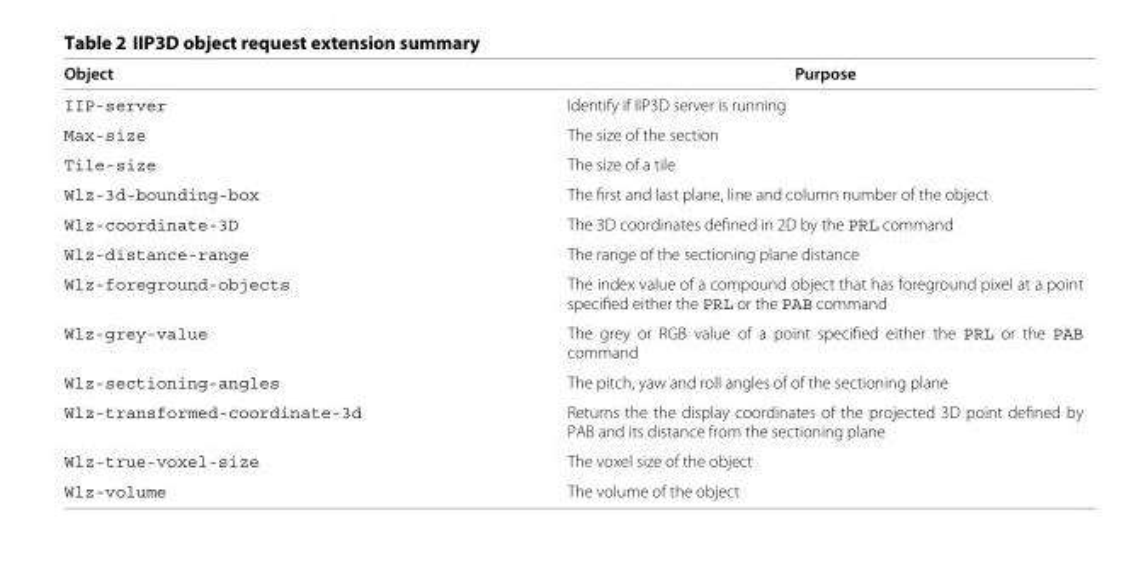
<table><thead><tr><td>Object</td><td>Purpose</td></tr></thead><tbody><tr><td>IIP-server</td><td>Identify if IIP3D server is running</td></tr><tr><td>Max-size</td><td>The size of the section</td></tr><tr><td>Tile-size</td><td>The size of a tile</td></tr><tr><td>Wlz-3d-bounding-box</td><td>The first and last plane, line and column number of the object</td></tr><tr><td>Wlz-coordinate-3D</td><td>The 3D coordinates defined in 2D by the PRL command</td></tr><tr><td>Wlz-distance-range</td><td>The range of the sectioning plane distance</td></tr><tr><td>Wlz-foreground-objects</td><td>The index value of a compound object that has foreground pixel at a point specified either the PRL or the PAB command</td></tr><tr><td>Wlz-grey-value</td><td>The grey or RGB value of a point specified either the PRL or the PAB command</td></tr><tr><td>Wlz-sectioning-angles</td><td>The pitch, yaw and roll angles of of the sectioning plane</td></tr><tr><td>Wlz-transformed-coordinate-3d</td><td>Returns the the display coordinates of the projected 3D point defined by PAB and its distance from the sectioning plane</td></tr><tr><td>Wlz-true-voxel-size</td><td>The voxel size of the object</td></tr><tr><td>Wlz-volume</td><td>The volume of the object</td></tr></tbody></table>